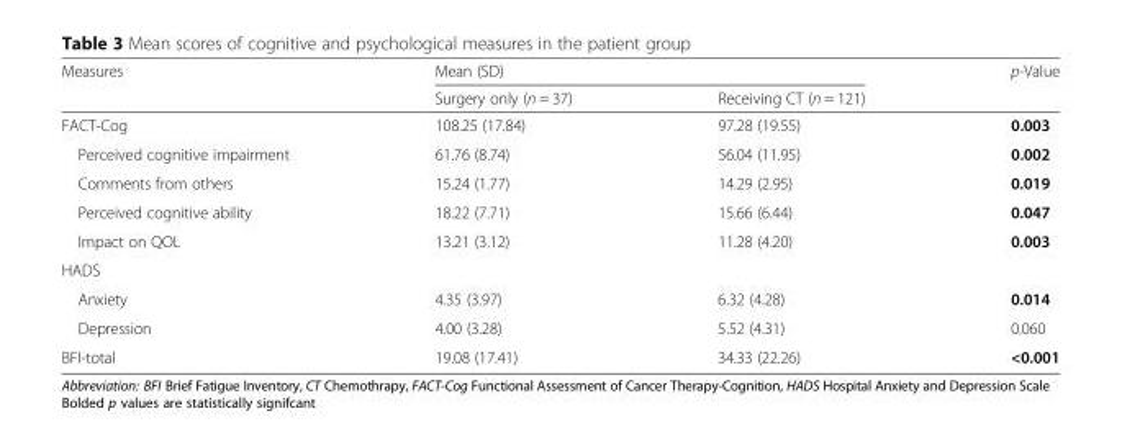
<table><thead><tr><td rowspan="2">Measures</td><td colspan="2">Mean (SD)</td><td rowspan="2">p-Value</td></tr><tr><td>Surgery only (n = 37)</td><td>Receiving CT (n = 121)</td></tr></thead><tbody><tr><td>FACT-Cog</td><td>108.25 (17.84)</td><td>97.28 (19.55)</td><td>0.003</td></tr><tr><td>Perceived cognitive impairment</td><td>61.76 (8.74)</td><td>56.04 (11.95)</td><td>0.002</td></tr><tr><td>Comments from others</td><td>15.24 (1.77)</td><td>14.29 (2.95)</td><td>0.019</td></tr><tr><td>Perceived cognitive ability</td><td>18.22 (7.71)</td><td>15.66 (6.44)</td><td>0.047</td></tr><tr><td>Impact on QOL</td><td>13.21 (3.12)</td><td>11.28 (4.20)</td><td>0.003</td></tr><tr><td colspan="4">HADS</td></tr><tr><td>Anxiety</td><td>4.35 (3.97)</td><td>6.32 (4.28)</td><td>0.014</td></tr><tr><td>Depression</td><td>4.00 (3.28)</td><td>5.52 (4.31)</td><td>0.060</td></tr><tr><td>BFI-total</td><td>19.08 (17.41)</td><td>34.33 (22.26)</td><td>&lt;0.001</td></tr></tbody></table>